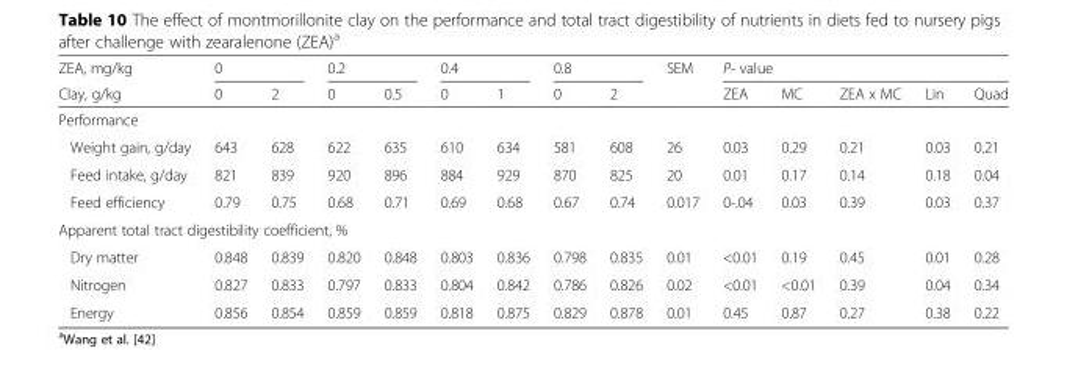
<table><thead><tr><td rowspan="2">ZEA, mg/kg Clay, g/kg</td><td colspan="2">0</td><td colspan="2">0.2</td><td colspan="2">0.4</td><td colspan="2">0.8</td><td rowspan="2">SEM</td><td colspan="5">P- value</td></tr><tr><td>0</td><td>2</td><td>0</td><td>0.5</td><td>0</td><td>1</td><td>0</td><td>2</td><td>ZEA</td><td>MC</td><td>ZEA x MC</td><td>Lin</td><td>Quad</td></tr></thead><tbody><tr><td colspan="15">Performance</td></tr><tr><td>Weight gain, g/day</td><td>643</td><td>628</td><td>622</td><td>635</td><td>610</td><td>634</td><td>581</td><td>608</td><td>26</td><td>0.03</td><td>0.29</td><td>0.21</td><td>0.03</td><td>0.21</td></tr><tr><td>Feed intake, g/day</td><td>821</td><td>839</td><td>920</td><td>896</td><td>884</td><td>929</td><td>870</td><td>825</td><td>20</td><td>0.01</td><td>0.17</td><td>0.14</td><td>0.18</td><td>0.04</td></tr><tr><td>Feed efficiency</td><td>0.79</td><td>0.75</td><td>0.68</td><td>0.71</td><td>0.69</td><td>0.68</td><td>0.67</td><td>0.74</td><td>0.017</td><td>0-.04</td><td>0.03</td><td>0.39</td><td>0.03</td><td>0.37</td></tr><tr><td colspan="15">Apparent total tract digestibility coefficient, %</td></tr><tr><td>Dry matter</td><td>0.848</td><td>0.839</td><td>0.820</td><td>0.848</td><td>0.803</td><td>0.836</td><td>0.798</td><td>0.835</td><td>0.01</td><td>&lt;0.01</td><td>0.19</td><td>0.45</td><td>0.01</td><td>0.28</td></tr><tr><td>Nitrogen</td><td>0.827</td><td>0.833</td><td>0.797</td><td>0.833</td><td>0.804</td><td>0.842</td><td>0.786</td><td>0.826</td><td>0.02</td><td>&lt;0.01</td><td>&lt;0.01</td><td>0.39</td><td>0.04</td><td>0.34</td></tr><tr><td>Energy</td><td>0.856</td><td>0.854</td><td>0.859</td><td>0.859</td><td>0.818</td><td>0.875</td><td>0.829</td><td>0.878</td><td>0.01</td><td>0.45</td><td>0.87</td><td>0.27</td><td>0.38</td><td>0.22</td></tr></tbody></table>